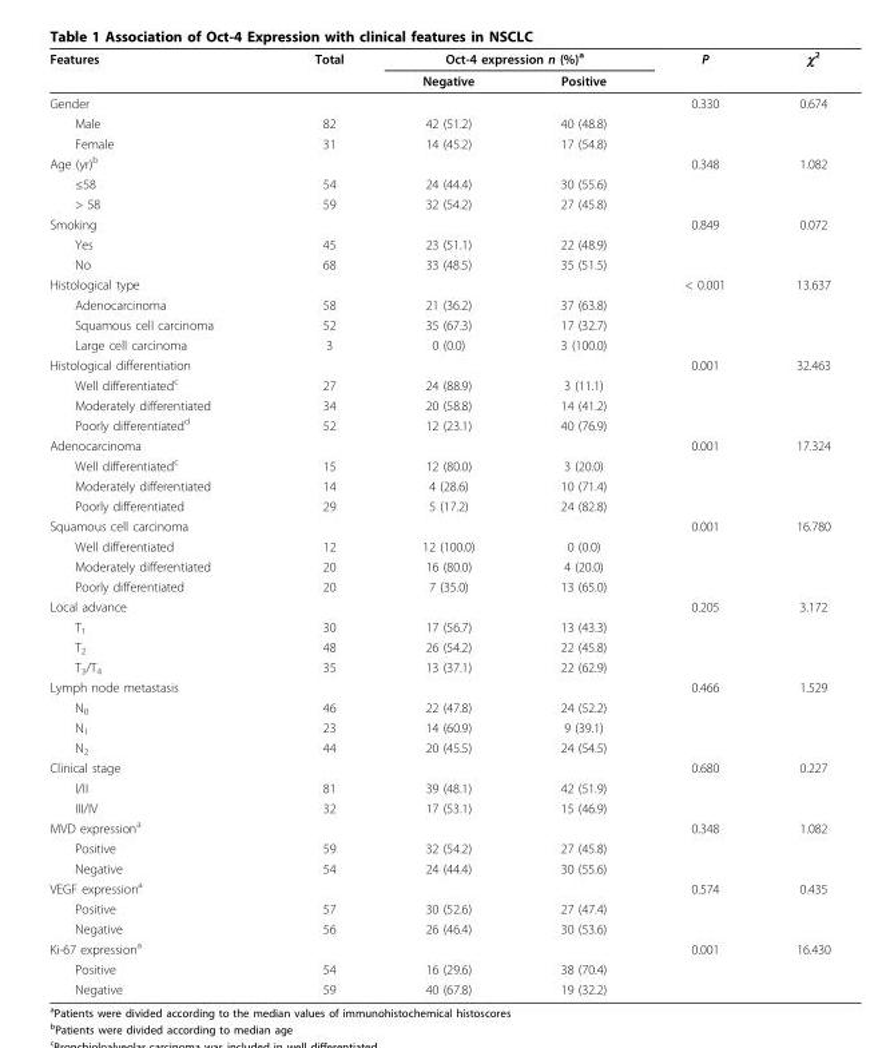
<table><thead><tr><td rowspan="2">Features</td><td rowspan="2">Total</td><td colspan="2">Oct-4 expression n (%)<sup>a</sup></td><td rowspan="2">P</td><td rowspan="2">χ<sup>2</sup></td></tr><tr><td>Negative</td><td>Positive</td></tr></thead><tbody><tr><td>Gender</td><td></td><td></td><td></td><td>0.330</td><td>0.674</td></tr><tr><td>Male</td><td>82</td><td>42 (51.2)</td><td>40 (48.8)</td><td></td><td></td></tr><tr><td>Female</td><td>31</td><td>14 (45.2)</td><td>17 (54.8)</td><td></td><td></td></tr><tr><td>Age (yr)<sup>b</sup></td><td></td><td></td><td></td><td>0.348</td><td>1.082</td></tr><tr><td>≤58</td><td>54</td><td>24 (44.4)</td><td>30 (55.6)</td><td></td><td></td></tr><tr><td>&gt; 58</td><td>59</td><td>32 (54.2)</td><td>27 (45.8)</td><td></td><td></td></tr><tr><td>Smoking</td><td></td><td></td><td></td><td>0.849</td><td>0.072</td></tr><tr><td>Yes</td><td>45</td><td>23 (51.1)</td><td>22 (48.9)</td><td></td><td></td></tr><tr><td>No</td><td>68</td><td>33 (48.5)</td><td>35 (51.5)</td><td></td><td></td></tr><tr><td>Histological type</td><td></td><td></td><td></td><td>&lt; 0.001</td><td>13.637</td></tr><tr><td>Adenocarcinoma</td><td>58</td><td>21 (36.2)</td><td>37 (63.8)</td><td></td><td></td></tr><tr><td>Squamous cell carcinoma</td><td>52</td><td>35 (67.3)</td><td>17 (32.7)</td><td></td><td></td></tr><tr><td>Large cell carcinoma</td><td>3</td><td>0 (0.0)</td><td>3 (100.0)</td><td></td><td></td></tr><tr><td>Histological differentiation</td><td></td><td></td><td></td><td>0.001</td><td>32.463</td></tr><tr><td>Well differentiated<sup>c</sup></td><td>27</td><td>24 (88.9)</td><td>3 (11.1)</td><td></td><td></td></tr><tr><td>Moderately differentiated</td><td>34</td><td>20 (58.8)</td><td>14 (41.2)</td><td></td><td></td></tr><tr><td>Poorly differentiated<sup>d</sup></td><td>52</td><td>12 (23.1)</td><td>40 (76.9)</td><td></td><td></td></tr><tr><td>Adenocarcinoma</td><td></td><td></td><td></td><td>0.001</td><td>17.324</td></tr><tr><td>Well differentiated<sup>c</sup></td><td>15</td><td>12 (80.0)</td><td>3 (20.0)</td><td></td><td></td></tr><tr><td>Moderately differentiated</td><td>14</td><td>4 (28.6)</td><td>10 (71.4)</td><td></td><td></td></tr><tr><td>Poorly differentiated</td><td>29</td><td>5 (17.2)</td><td>24 (82.8)</td><td></td><td></td></tr><tr><td>Squamous cell carcinoma</td><td></td><td></td><td></td><td>0.001</td><td>16.780</td></tr><tr><td>Well differentiated</td><td>12</td><td>12 (100.0)</td><td>0 (0.0)</td><td></td><td></td></tr><tr><td>Moderately differentiated</td><td>20</td><td>16 (80.0)</td><td>4 (20.0)</td><td></td><td></td></tr><tr><td>Poorly differentiated</td><td>20</td><td>7 (35.0)</td><td>13 (65.0)</td><td></td><td></td></tr><tr><td>Local advance</td><td></td><td></td><td></td><td>0.205</td><td>3.172</td></tr><tr><td>T<sub>1</sub></td><td>30</td><td>17 (56.7)</td><td>13 (43.3)</td><td></td><td></td></tr><tr><td>T<sub>2</sub></td><td>48</td><td>26 (54.2)</td><td>22 (45.8)</td><td></td><td></td></tr><tr><td>T<sub>3</sub>/T<sub>4</sub></td><td>35</td><td>13 (37.1)</td><td>22 (62.9)</td><td></td><td></td></tr><tr><td>Lymph node metastasis</td><td></td><td></td><td></td><td>0.466</td><td>1.529</td></tr><tr><td>N<sub>0</sub></td><td>46</td><td>22 (47.8)</td><td>24 (52.2)</td><td></td><td></td></tr><tr><td>N<sub>1</sub></td><td>23</td><td>14 (60.9)</td><td>9 (39.1)</td><td></td><td></td></tr><tr><td>N<sub>2</sub></td><td>44</td><td>20 (45.5)</td><td>24 (54.5)</td><td></td><td></td></tr><tr><td>Clinical stage</td><td></td><td></td><td></td><td>0.680</td><td>0.227</td></tr><tr><td>I/II</td><td>81</td><td>39 (48.1)</td><td>42 (51.9)</td><td></td><td></td></tr><tr><td>III/IV</td><td>32</td><td>17 (53.1)</td><td>15 (46.9)</td><td></td><td></td></tr><tr><td>MVD expression<sup>a</sup></td><td></td><td></td><td></td><td>0.348</td><td>1.082</td></tr><tr><td>Positive</td><td>59</td><td>32 (54.2)</td><td>27 (45.8)</td><td></td><td></td></tr><tr><td>Negative</td><td>54</td><td>24 (44.4)</td><td>30 (55.6)</td><td></td><td></td></tr><tr><td>VEGF expression<sup>a</sup></td><td></td><td></td><td></td><td>0.574</td><td>0.435</td></tr><tr><td>Positive</td><td>57</td><td>30 (52.6)</td><td>27 (47.4)</td><td></td><td></td></tr><tr><td>Negative</td><td>56</td><td>26 (46.4)</td><td>30 (53.6)</td><td></td><td></td></tr><tr><td>Ki-67 expression<sup>a</sup></td><td></td><td></td><td></td><td>0.001</td><td>16.430</td></tr><tr><td>Positive</td><td>54</td><td>16 (29.6)</td><td>38 (70.4)</td><td></td><td></td></tr><tr><td>Negative</td><td>59</td><td>40 (67.8)</td><td>19 (32.2)</td><td></td><td></td></tr></tbody></table>